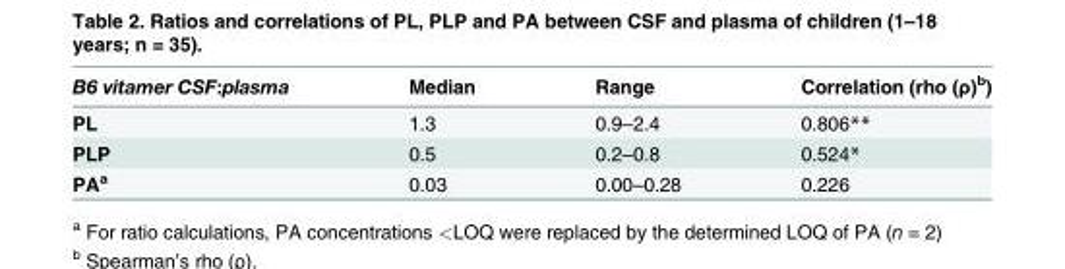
<table><thead><tr><td>B6 vitamer CSF:plasma</td><td>Median</td><td>Range</td><td>Correlation (rho (ρ)<sup>b</sup>)</td></tr></thead><tbody><tr><td>PL</td><td>1.3</td><td>0.9–2.4</td><td>0.806**</td></tr><tr><td>PLP</td><td>0.5</td><td>0.2–0.8</td><td>0.524*</td></tr><tr><td>PA<sup>a</sup></td><td>0.03</td><td>0.00–0.28</td><td>0.226</td></tr></tbody></table>